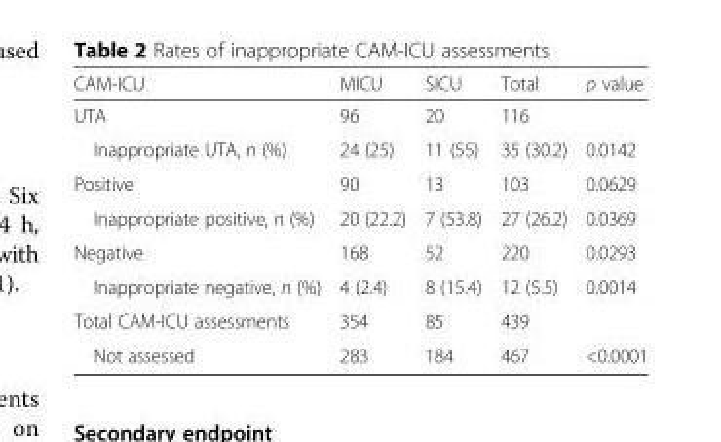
<table><thead><tr><td>CAM-ICU</td><td>MICU</td><td>SICU</td><td>Total</td><td>p value</td></tr></thead><tbody><tr><td>UTA</td><td>96</td><td>20</td><td>116</td><td></td></tr><tr><td>Inappropriate UTA, n (%)</td><td>24 (25)</td><td>11 (55)</td><td>35 (30.2)</td><td>0.0142</td></tr><tr><td>Positive</td><td>90</td><td>13</td><td>103</td><td>0.0629</td></tr><tr><td>Inappropriate positive, n (%)</td><td>20 (22.2)</td><td>7 (53.8)</td><td>27 (26.2)</td><td>0.0369</td></tr><tr><td>Negative</td><td>168</td><td>52</td><td>220</td><td>0.0293</td></tr><tr><td>Inappropriate negative, n (%)</td><td>4 (2.4)</td><td>8 (15.4)</td><td>12 (5.5)</td><td>0.0014</td></tr><tr><td>Total CAM-ICU assessments</td><td>354</td><td>85</td><td>439</td><td></td></tr><tr><td>Not assessed</td><td>283</td><td>184</td><td>467</td><td>&lt;0.0001</td></tr></tbody></table>